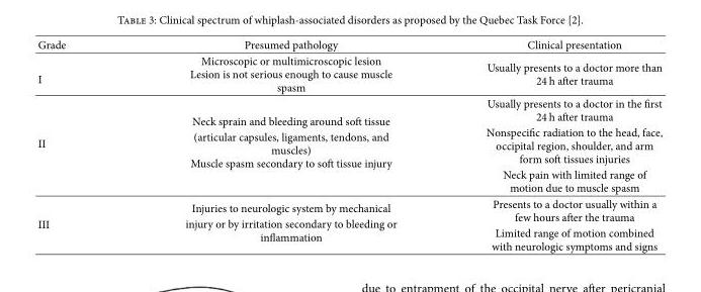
<table><tbody><tr><td>Grade</td><td>Presumed pathology</td><td>Clinical presentation</td></tr><tr><td>I</td><td>Microscopic or multimicroscopic lesion Lesion is not serious enough to cause muscle spasm</td><td>Usually presents to a doctor more than 24 h after trauma</td></tr><tr><td rowspan="3">II</td><td rowspan="3">Neck sprain and bleeding around soft tissue (articular capsules, ligaments, tendons, and muscles) Muscle spasm secondary to soft tissue injury</td><td>Usually presents to a doctor in the first 24 h after trauma</td></tr><tr><td>Nonspecific radiation to the head, face, occipital region, shoulder, and arm form soft tissues injuries</td></tr><tr><td>Neck pain with limited range of motion due to muscle spasm</td></tr><tr><td rowspan="2">III</td><td rowspan="2">Injuries to neurologic system by mechanical injury or by irritation secondary to bleeding or inflammation</td><td>Presents to a doctor usually within a few hours after the trauma</td></tr><tr><td>Limited range of motion combined with neurologic symptoms and signs</td></tr></tbody></table>